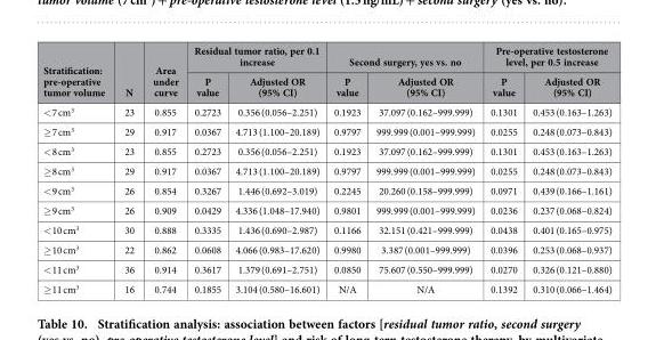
<table><thead><tr><td rowspan="2">Stratification: pre-operative tumor volume</td><td rowspan="2">N</td><td rowspan="2">Area under curve</td><td colspan="2">Residual tumor ratio, per 0.1 increase</td><td colspan="2">Second surgery, yes vs. no</td><td colspan="2">Pre-operative testosterone level, per 0.5 increase</td></tr><tr><td>P value</td><td>Adjusted OR (95% CI)</td><td>P value</td><td>Adjusted OR (95% CI)</td><td>P value</td><td>Adjusted OR (95% CI)</td></tr></thead><tbody><tr><td>&lt; 7 cm<sup>3</sup></td><td>23</td><td>0.855</td><td>0.2723</td><td>0.356 (0.056–2.251)</td><td>0.1923</td><td>37.097 (0.162–999.999)</td><td>0.1301</td><td>0.453 (0.163–1.263)</td></tr><tr><td>≥ 7 cm<sup>3</sup></td><td>29</td><td>0.917</td><td>0.0367</td><td>4.713 (1.100–20.189)</td><td>0.9797</td><td>999.999 (0.001–999.999)</td><td>0.0255</td><td>0.248 (0.073–0.843)</td></tr><tr><td>&lt; 8 cm<sup>3</sup></td><td>23</td><td>0.855</td><td>0.2723</td><td>0.356 (0.056–2.251)</td><td>0.1923</td><td>37.097 (0.162–999.999)</td><td>0.1301</td><td>0.453 (0.163–1.263)</td></tr><tr><td>≥ 8 cm<sup>3</sup></td><td>29</td><td>0.917</td><td>0.0367</td><td>4.713 (1.100–20.189)</td><td>0.9797</td><td>999.999 (0.001–999.999)</td><td>0.0255</td><td>0.248 (0.073–0.843)</td></tr><tr><td>&lt; 9 cm<sup>3</sup></td><td>26</td><td>0.854</td><td>0.3267</td><td>1.446 (0.692–3.019)</td><td>0.2245</td><td>20.260 (0.158–999.999)</td><td>0.0971</td><td>0.439 (0.166–1.161)</td></tr><tr><td>≥ 9 cm<sup>3</sup></td><td>26</td><td>0.909</td><td>0.0429</td><td>4.336 (1.048–17.940)</td><td>0.9801</td><td>999.999 (0.001–999.999)</td><td>0.0236</td><td>0.237 (0.068–0.824)</td></tr><tr><td>&lt; 10 cm<sup>3</sup></td><td>30</td><td>0.888</td><td>0.3335</td><td>1.436 (0.690–2.987)</td><td>0.1166</td><td>32.151 (0.421–999.999)</td><td>0.0438</td><td>0.401 (0.165–0.975)</td></tr><tr><td>≥ 10 cm<sup>3</sup></td><td>22</td><td>0.862</td><td>0.0608</td><td>4.066 (0.983–17.620)</td><td>0.9980</td><td>3.387 (0.001–999.999)</td><td>0.0396</td><td>0.253 (0.068–0.937)</td></tr><tr><td>&lt; 11 cm<sup>3</sup></td><td>36</td><td>0.914</td><td>0.3617</td><td>1.379 (0.691–2.751)</td><td>0.0850</td><td>75.607 (0.550–999.999)</td><td>0.0270</td><td>0.326 (0.121–0.880)</td></tr><tr><td>≥ 11 cm<sup>3</sup></td><td>16</td><td>0.744</td><td>0.1855</td><td>3.104 (0.580–16.601)</td><td>N/A</td><td>N/A</td><td>0.1392</td><td>0.310 (0.066–1.464)</td></tr></tbody></table>